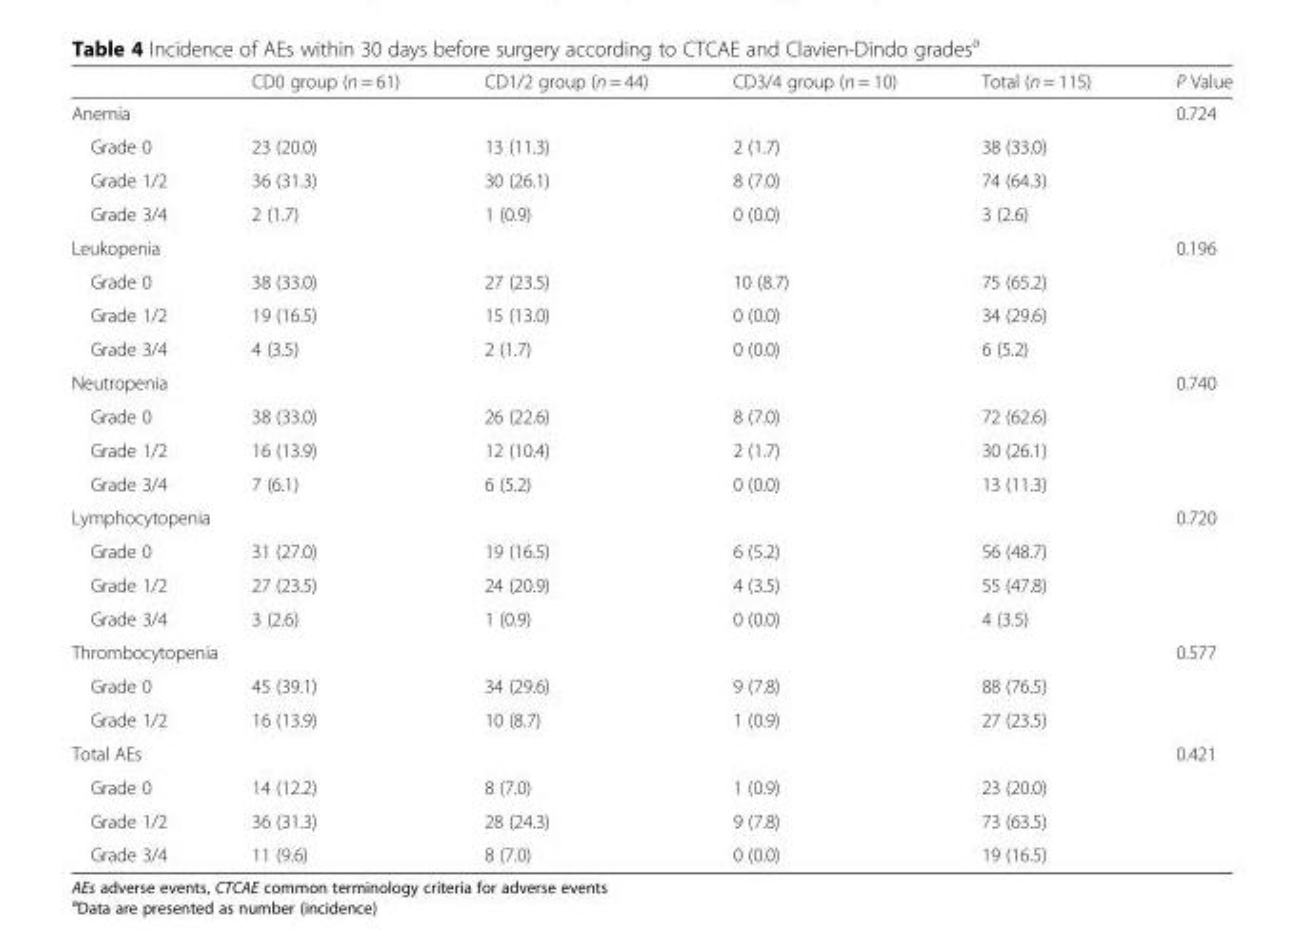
<table><thead><tr><td></td><td>CD0 group (n = 61)</td><td>CD1/2 group (n = 44)</td><td>CD3/4 group (n = 10)</td><td>Total (n = 115)</td><td>P Value</td></tr></thead><tbody><tr><td>Anemia</td><td></td><td></td><td></td><td></td><td>0.724</td></tr><tr><td>Grade 0</td><td>23 (20.0)</td><td>13 (11.3)</td><td>2 (1.7)</td><td>38 (33.0)</td><td></td></tr><tr><td>Grade 1/2</td><td>36 (31.3)</td><td>30 (26.1)</td><td>8 (7.0)</td><td>74 (64.3)</td><td></td></tr><tr><td>Grade 3/4</td><td>2 (1.7)</td><td>1 (0.9)</td><td>0 (0.0)</td><td>3 (2.6)</td><td></td></tr><tr><td colspan="2">Leukopenia</td><td></td><td></td><td></td><td>0.196</td></tr><tr><td>Grade 0</td><td>38 (33.0)</td><td>27 (23.5)</td><td>10 (8.7)</td><td>75 (65.2)</td><td></td></tr><tr><td>Grade 1/2</td><td>19 (16.5)</td><td>15 (13.0)</td><td>0 (0.0)</td><td>34 (29.6)</td><td></td></tr><tr><td>Grade 3/4</td><td>4 (3.5)</td><td>2 (1.7)</td><td>0 (0.0)</td><td>6 (5.2)</td><td></td></tr><tr><td colspan="2">Neutropenia</td><td></td><td></td><td></td><td>0.740</td></tr><tr><td>Grade 0</td><td>38 (33.0)</td><td>26 (22.6)</td><td>8 (7.0)</td><td>72 (62.6)</td><td></td></tr><tr><td>Grade 1/2</td><td>16 (13.9)</td><td>12 (10.4)</td><td>2 (1.7)</td><td>30 (26.1)</td><td></td></tr><tr><td>Grade 3/4</td><td>7 (6.1)</td><td>6 (5.2)</td><td>0 (0.0)</td><td>13 (11.3)</td><td></td></tr><tr><td colspan="2">Lymphocytopenia</td><td></td><td></td><td></td><td>0.720</td></tr><tr><td>Grade 0</td><td>31 (27.0)</td><td>19 (16.5)</td><td>6 (5.2)</td><td>56 (48.7)</td><td></td></tr><tr><td>Grade 1/2</td><td>27 (23.5)</td><td>24 (20.9)</td><td>4 (3.5)</td><td>55 (47.8)</td><td></td></tr><tr><td>Grade 3/4</td><td>3 (2.6)</td><td>1 (0.9)</td><td>0 (0.0)</td><td>4 (3.5)</td><td></td></tr><tr><td colspan="2">Thrombocytopenia</td><td></td><td></td><td></td><td>0.577</td></tr><tr><td>Grade 0</td><td>45 (39.1)</td><td>34 (29.6)</td><td>9 (7.8)</td><td>88 (76.5)</td><td></td></tr><tr><td>Grade 1/2</td><td>16 (13.9)</td><td>10 (8.7)</td><td>1 (0.9)</td><td>27 (23.5)</td><td></td></tr><tr><td colspan="4">Total AEs</td><td></td><td>0.421</td></tr><tr><td>Grade 0</td><td>14 (12.2)</td><td>8 (7.0)</td><td>1 (0.9)</td><td>23 (20.0)</td><td></td></tr><tr><td>Grade 1/2</td><td>36 (31.3)</td><td>28 (24.3)</td><td>9 (7.8)</td><td>73 (63.5)</td><td></td></tr><tr><td>Grade 3/4</td><td>11 (9.6)</td><td>8 (7.0)</td><td>0 (0.0)</td><td>19 (16.5)</td><td></td></tr></tbody></table>